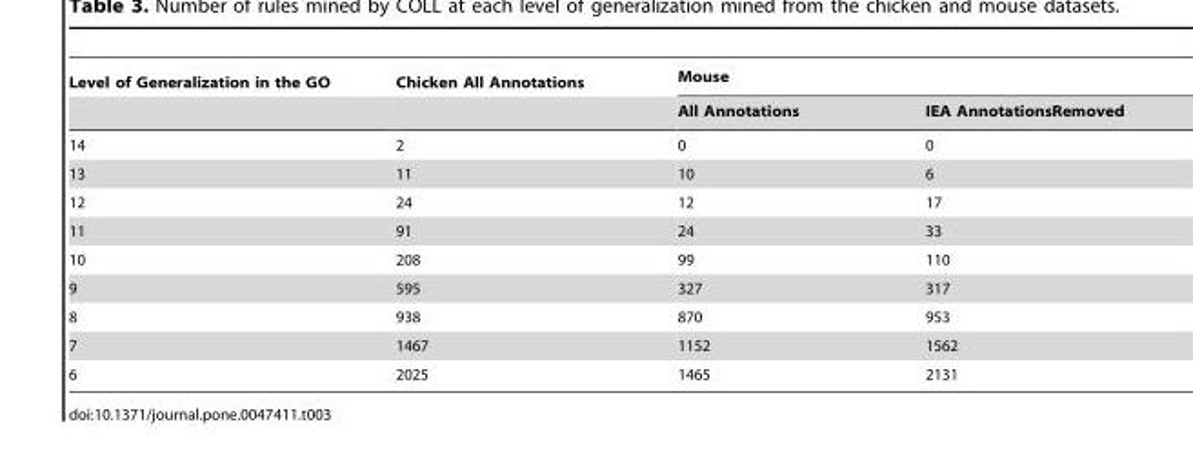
<table><thead><tr><td rowspan="2">Level of Generalization in the GO</td><td rowspan="2">Chicken All Annotations</td><td colspan="2">Mouse</td></tr><tr><td>All Annotations</td><td>IEA AnnotationsRemoved</td></tr></thead><tbody><tr><td>14</td><td>2</td><td>0</td><td>0</td></tr><tr><td>13</td><td>11</td><td>10</td><td>6</td></tr><tr><td>12</td><td>24</td><td>12</td><td>17</td></tr><tr><td>11</td><td>91</td><td>24</td><td>33</td></tr><tr><td>10</td><td>208</td><td>99</td><td>110</td></tr><tr><td>9</td><td>595</td><td>327</td><td>317</td></tr><tr><td>8</td><td>938</td><td>870</td><td>953</td></tr><tr><td>7</td><td>1467</td><td>1152</td><td>1562</td></tr><tr><td>6</td><td>2025</td><td>1465</td><td>2131</td></tr></tbody></table>